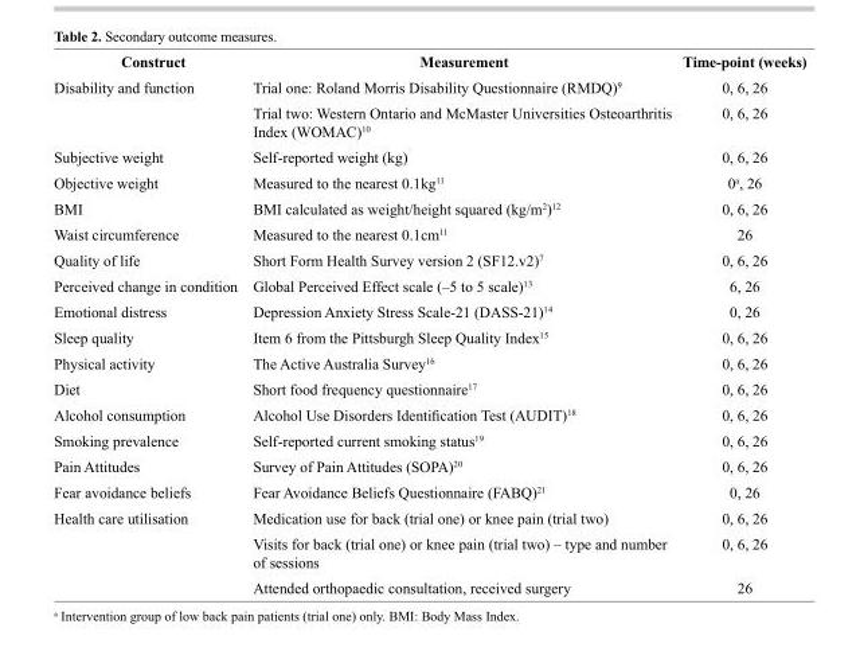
<table><thead><tr><td>Construct</td><td>Measurement</td><td>Time-point (weeks)</td></tr></thead><tbody><tr><td>Disability and function</td><td>Trial one: Roland Morris Disability Questionnaire (RMDQ)<sup>9</sup> Trial two: Western Ontario and McMaster Universities Osteoarthritis Index (WOMAC)<sup>10</sup></td><td>0, 6, 26 0, 6, 26</td></tr><tr><td>Subjective weight</td><td>Self-reported weight (kg)</td><td>0, 6, 26</td></tr><tr><td>Objective weight</td><td>Measured to the nearest 0.1kg<sup>11</sup></td><td>0<sup>a</sup>, 26</td></tr><tr><td>BMI</td><td>BMI calculated as weight/height squared (kg/m<sup>2</sup>)<sup>12</sup></td><td>0, 6, 26</td></tr><tr><td>Waist circumference</td><td>Measured to the nearest 0.1cm<sup>11</sup></td><td>26</td></tr><tr><td>Quality of life</td><td>Short Form Health Survey version 2 (SF12.v2)<sup>7</sup></td><td>0, 6, 26</td></tr><tr><td>Perceived change in condition</td><td>Global Perceived Effect scale (–5 to 5 scale)<sup>13</sup></td><td>6, 26</td></tr><tr><td>Emotional distress</td><td>Depression Anxiety Stress Scale-21 (DASS-21)<sup>14</sup></td><td>0, 26</td></tr><tr><td>Sleep quality</td><td>Item 6 from the Pittsburgh Sleep Quality Index<sup>15</sup></td><td>0, 6, 26</td></tr><tr><td>Physical activity</td><td>The Active Australia Survey<sup>16</sup></td><td>0, 6, 26</td></tr><tr><td>Diet</td><td>Short food frequency questionnaire<sup>17</sup></td><td>0, 6, 26</td></tr><tr><td>Alcohol consumption</td><td>Alcohol Use Disorders Identification Test (AUDIT)<sup>18</sup></td><td>0, 6, 26</td></tr><tr><td>Smoking prevalence</td><td>Self-reported current smoking status<sup>19</sup></td><td>0, 6, 26</td></tr><tr><td>Pain Attitudes</td><td>Survey of Pain Attitudes (SOPA)<sup>20</sup></td><td>0, 6, 26</td></tr><tr><td>Fear avoidance beliefs</td><td>Fear Avoidance Beliefs Questionnaire (FABQ)<sup>21</sup></td><td>0, 26</td></tr><tr><td>Health care utilisation</td><td>Medication use for back (trial one) or knee pain (trial two) Visits for back (trial one) or knee pain (trial two) – type and number of sessions Attended orthopaedic consultation, received surgery</td><td>0, 6, 26 0, 6, 26 26</td></tr></tbody></table>